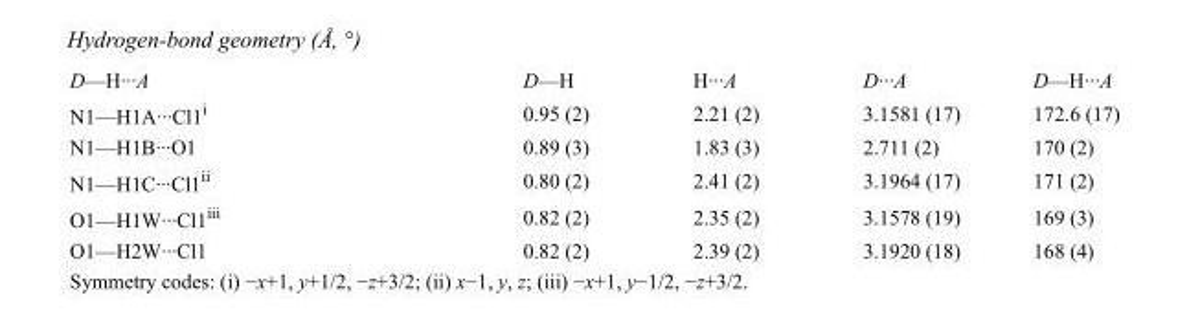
<table><tbody><tr><td>D—H···A</td><td>D—H</td><td>H···A</td><td>D···A</td><td>D—H···A</td></tr><tr><td>N1—H1A···Cl1<sup>i</sup></td><td>0.95 (2)</td><td>2.21 (2)</td><td>3.1581 (17)</td><td>172.6 (17)</td></tr><tr><td>N1—H1B···O1</td><td>0.89 (3)</td><td>1.83 (3)</td><td>2.711 (2)</td><td>170 (2)</td></tr><tr><td>N1—H1C···Cl1<sup>ii</sup></td><td>0.80 (2)</td><td>2.41 (2)</td><td>3.1964 (17)</td><td>171 (2)</td></tr><tr><td>O1—H1W···Cl1<sup>iii</sup></td><td>0.82 (2)</td><td>2.35 (2)</td><td>3.1578 (19)</td><td>169 (3)</td></tr><tr><td>O1—H2W···Cl1</td><td>0.82 (2)</td><td>2.39 (2)</td><td>3.1920 (18)</td><td>168 (4)</td></tr></tbody></table>